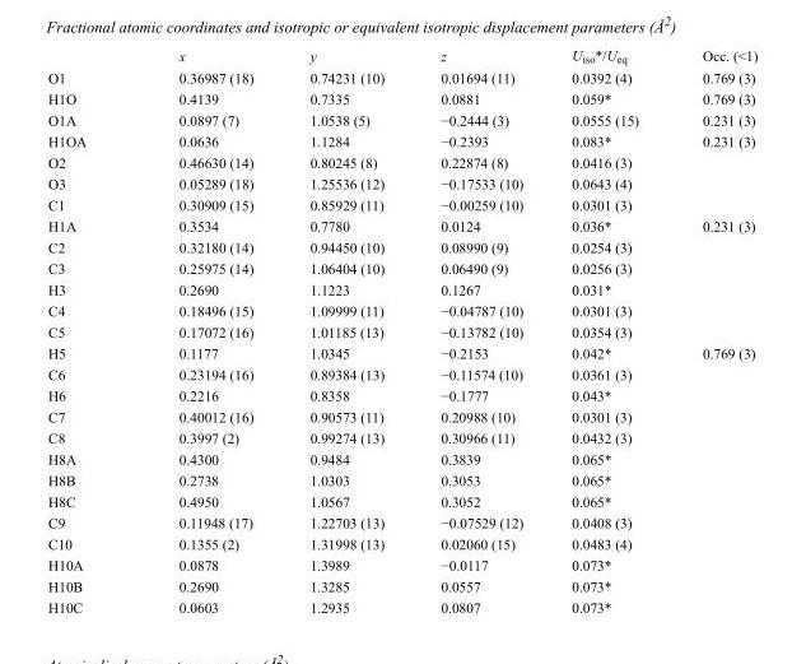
<table><thead><tr><td></td><td>x</td><td>y</td><td>z</td><td>U<sub>iso</sub>*/U<sub>eq</sub></td><td>Occ. (&lt;1)</td></tr></thead><tbody><tr><td>O1</td><td>0.36987 (18)</td><td>0.74231 (10)</td><td>0.01694 (11)</td><td>0.0392 (4)</td><td>0.769 (3)</td></tr><tr><td>H1O</td><td>0.4139</td><td>0.7335</td><td>0.0881</td><td>0.059*</td><td>0.769 (3)</td></tr><tr><td>O1A</td><td>0.0897 (7)</td><td>1.0538 (5)</td><td>−0.2444 (3)</td><td>0.0555 (15)</td><td>0.231 (3)</td></tr><tr><td>H1OA</td><td>0.0636</td><td>1.1284</td><td>−0.2393</td><td>0.083*</td><td>0.231 (3)</td></tr><tr><td>O2</td><td>0.46630 (14)</td><td>0.80245 (8)</td><td>0.22874 (8)</td><td>0.0416 (3)</td><td></td></tr><tr><td>O3</td><td>0.05289 (18)</td><td>1.25536 (12)</td><td>−0.17533 (10)</td><td>0.0643 (4)</td><td></td></tr><tr><td>C1</td><td>0.30909 (15)</td><td>0.85929 (11)</td><td>−0.00259 (10)</td><td>0.0301 (3)</td><td></td></tr><tr><td>H1A</td><td>0.3534</td><td>0.7780</td><td>0.0124</td><td>0.036*</td><td>0.231 (3)</td></tr><tr><td>C2</td><td>0.32180 (14)</td><td>0.94450 (10)</td><td>0.08990 (9)</td><td>0.0254 (3)</td><td></td></tr><tr><td>C3</td><td>0.25975 (14)</td><td>1.06404 (10)</td><td>0.06490 (9)</td><td>0.0256 (3)</td><td></td></tr><tr><td>H3</td><td>0.2690</td><td>1.1223</td><td>0.1267</td><td>0.031*</td><td></td></tr><tr><td>C4</td><td>0.18496 (15)</td><td>1.09999 (11)</td><td>−0.04787 (10)</td><td>0.0301 (3)</td><td></td></tr><tr><td>C5</td><td>0.17072 (16)</td><td>1.01185 (13)</td><td>−0.13782 (10)</td><td>0.0354 (3)</td><td></td></tr><tr><td>H5</td><td>0.1177</td><td>1.0345</td><td>−0.2153</td><td>0.042*</td><td>0.769 (3)</td></tr><tr><td>C6</td><td>0.23194 (16)</td><td>0.89384 (13)</td><td>−0.11574 (10)</td><td>0.0361 (3)</td><td></td></tr><tr><td>H6</td><td>0.2216</td><td>0.8358</td><td>−0.1777</td><td>0.043*</td><td></td></tr><tr><td>C7</td><td>0.40012 (16)</td><td>0.90573 (11)</td><td>0.20988 (10)</td><td>0.0301 (3)</td><td></td></tr><tr><td>C8</td><td>0.3997 (2)</td><td>0.99274 (13)</td><td>0.30966 (11)</td><td>0.0432 (3)</td><td></td></tr><tr><td>H8A</td><td>0.4300</td><td>0.9484</td><td>0.3839</td><td>0.065*</td><td></td></tr><tr><td>H8B</td><td>0.2738</td><td>1.0303</td><td>0.3053</td><td>0.065*</td><td></td></tr><tr><td>H8C</td><td>0.4950</td><td>1.0567</td><td>0.3052</td><td>0.065*</td><td></td></tr><tr><td>C9</td><td>0.11948 (17)</td><td>1.22703 (13)</td><td>−0.07529 (12)</td><td>0.0408 (3)</td><td></td></tr><tr><td>C10</td><td>0.1355 (2)</td><td>1.31998 (13)</td><td>0.02060 (15)</td><td>0.0483 (4)</td><td></td></tr><tr><td>H10A</td><td>0.0878</td><td>1.3989</td><td>−0.0117</td><td>0.073*</td><td></td></tr><tr><td>H10B</td><td>0.2690</td><td>1.3285</td><td>0.0557</td><td>0.073*</td><td></td></tr><tr><td>H10C</td><td>0.0603</td><td>1.2935</td><td>0.0807</td><td>0.073*</td><td></td></tr></tbody></table>